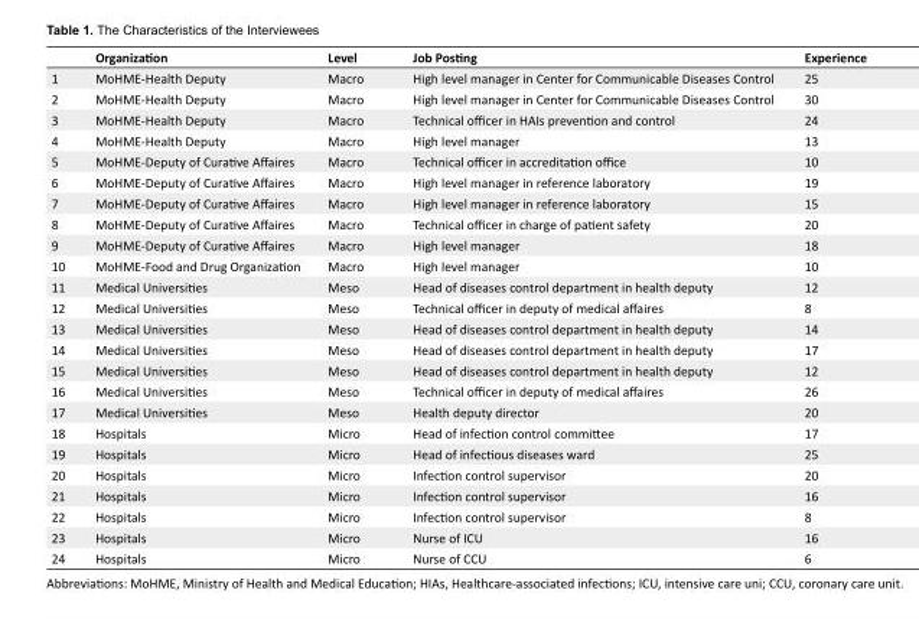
<table><thead><tr><td></td><td>Organization</td><td>Level</td><td>Job Posting</td><td>Experience</td></tr></thead><tbody><tr><td>1</td><td>MoHME-Health Deputy</td><td>Macro</td><td>High level manager in Center for Communicable Diseases Control</td><td>25</td></tr><tr><td>2</td><td>MoHME-Health Deputy</td><td>Macro</td><td>High level manager in Center for Communicable Diseases Control</td><td>30</td></tr><tr><td>3</td><td>MoHME-Health Deputy</td><td>Macro</td><td>Technical officer in HAIs prevention and control</td><td>24</td></tr><tr><td>4</td><td>MoHME-Health Deputy</td><td>Macro</td><td>High level manager</td><td>13</td></tr><tr><td>5</td><td>MoHME-Deputy of Curative Affaires</td><td>Macro</td><td>Technical officer in accreditation office</td><td>10</td></tr><tr><td>6</td><td>MoHME-Deputy of Curative Affaires</td><td>Macro</td><td>High level manager in reference laboratory</td><td>19</td></tr><tr><td>7</td><td>MoHME-Deputy of Curative Affaires</td><td>Macro</td><td>High level manager in reference laboratory</td><td>15</td></tr><tr><td>8</td><td>MoHME-Deputy of Curative Affaires</td><td>Macro</td><td>Technical officer in charge of patient safety</td><td>20</td></tr><tr><td>9</td><td>MoHME-Deputy of Curative Affaires</td><td>Macro</td><td>High level manager</td><td>18</td></tr><tr><td>10</td><td>MoHME-Food and Drug Organization</td><td>Macro</td><td>High level manager</td><td>10</td></tr><tr><td>11</td><td>Medical Universities</td><td>Meso</td><td>Head of diseases control department in health deputy</td><td>12</td></tr><tr><td>12</td><td>Medical Universities</td><td>Meso</td><td>Technical officer in deputy of medical affaires</td><td>8</td></tr><tr><td>13</td><td>Medical Universities</td><td>Meso</td><td>Head of diseases control department in health deputy</td><td>14</td></tr><tr><td>14</td><td>Medical Universities</td><td>Meso</td><td>Head of diseases control department in health deputy</td><td>17</td></tr><tr><td>15</td><td>Medical Universities</td><td>Meso</td><td>Head of diseases control department in health deputy</td><td>12</td></tr><tr><td>16</td><td>Medical Universities</td><td>Meso</td><td>Technical officer in deputy of medical affaires</td><td>26</td></tr><tr><td>17</td><td>Medical Universities</td><td>Meso</td><td>Health deputy director</td><td>20</td></tr><tr><td>18</td><td>Hospitals</td><td>Micro</td><td>Head of infection control committee</td><td>17</td></tr><tr><td>19</td><td>Hospitals</td><td>Micro</td><td>Head of infectious diseases ward</td><td>25</td></tr><tr><td>20</td><td>Hospitals</td><td>Micro</td><td>Infection control supervisor</td><td>20</td></tr><tr><td>21</td><td>Hospitals</td><td>Micro</td><td>Infection control supervisor</td><td>16</td></tr><tr><td>22</td><td>Hospitals</td><td>Micro</td><td>Infection control supervisor</td><td>8</td></tr><tr><td>23</td><td>Hospitals</td><td>Micro</td><td>Nurse of ICU</td><td>16</td></tr><tr><td>24</td><td>Hospitals</td><td>Micro</td><td>Nurse of CCU</td><td>6</td></tr></tbody></table>